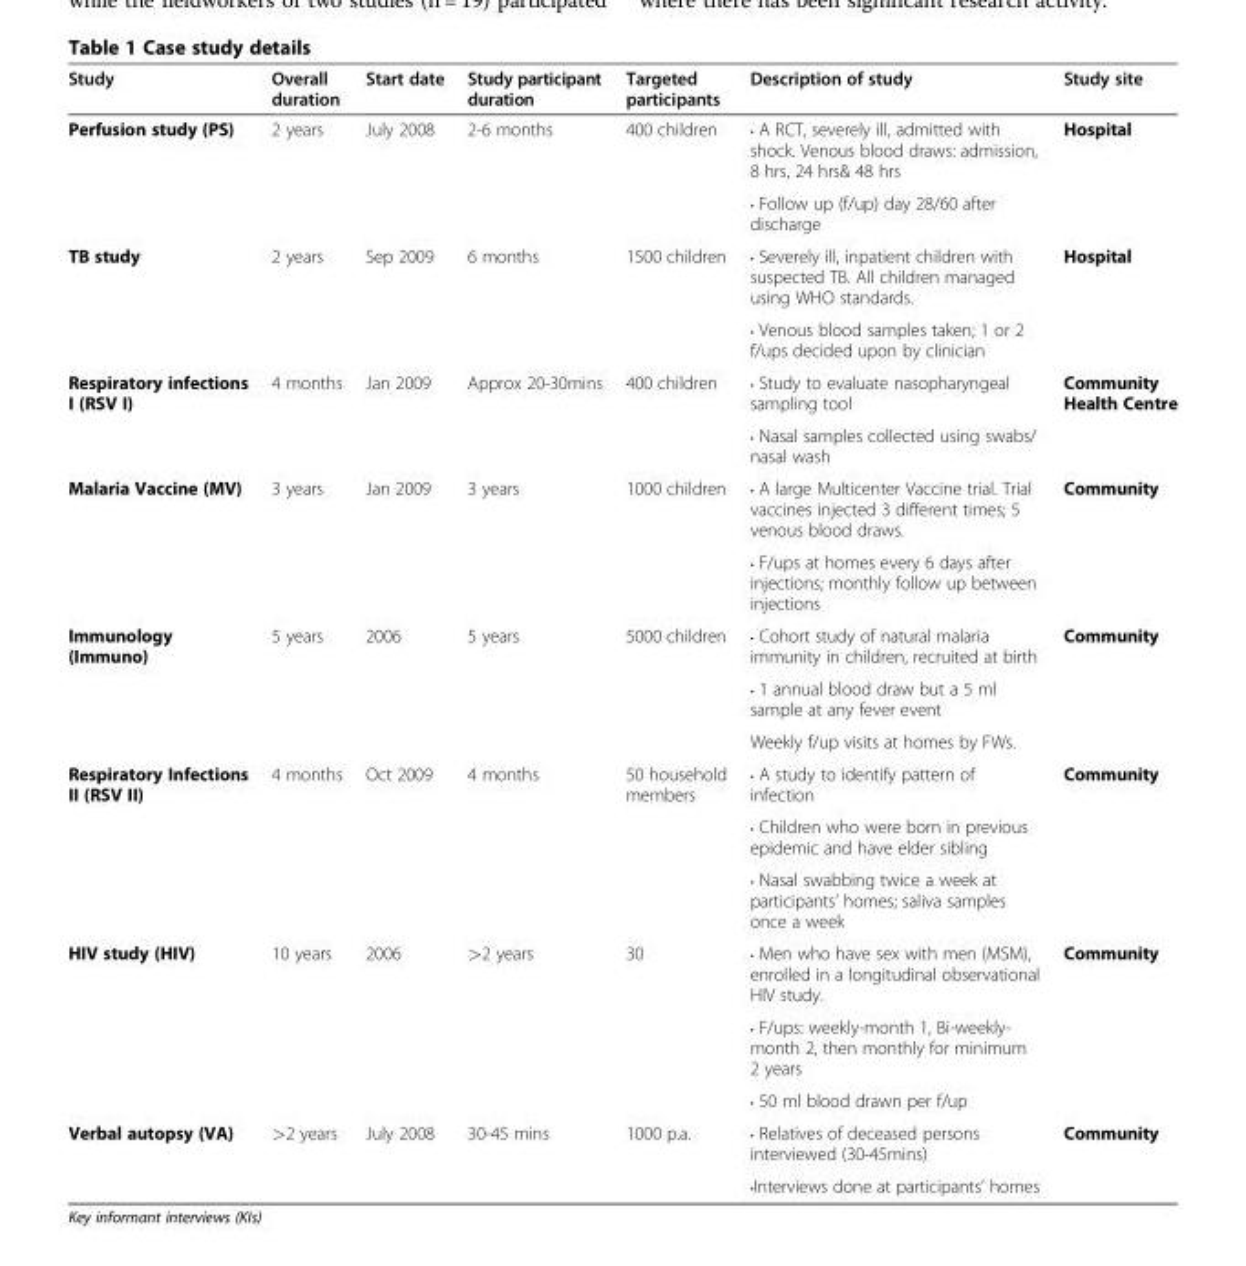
<table><thead><tr><td>Study</td><td>Overall duration</td><td>Start date</td><td>Study participant duration</td><td>Targeted participants</td><td>Description of study</td><td>Study site</td></tr></thead><tbody><tr><td rowspan="2">Perfusion study (PS)</td><td rowspan="2">2 years</td><td rowspan="2">July 2008</td><td rowspan="2">2-6 months</td><td rowspan="2">400 children</td><td>• A RCT, severely ill, admitted with shock. Venous blood draws: admission, 8 hrs, 24 hrs&amp; 48 hrs</td><td rowspan="2">Hospital</td></tr><tr><td>• Follow up (f/up) day 28/60 after discharge</td></tr><tr><td rowspan="2">TB study</td><td rowspan="2">2 years</td><td rowspan="2">Sep 2009</td><td rowspan="2">6 months</td><td rowspan="2">1500 children</td><td>• Severely ill, inpatient children with suspected TB. All children managed using WHO standards.</td><td rowspan="2">Hospital</td></tr><tr><td>• Venous blood samples taken; 1 or 2 f/ups decided upon by clinician</td></tr><tr><td rowspan="2">Respiratory infections I (RSV I)</td><td rowspan="2">4 months</td><td rowspan="2">Jan 2009</td><td rowspan="2">Approx 20-30mins</td><td rowspan="2">400 children</td><td>• Study to evaluate nasopharyngeal sampling tool</td><td rowspan="2">Community Health Centre</td></tr><tr><td>• Nasal samples collected using swabs/ nasal wash</td></tr><tr><td rowspan="2">Malaria Vaccine (MV)</td><td rowspan="2">3 years</td><td rowspan="2">Jan 2009</td><td rowspan="2">3 years</td><td rowspan="2">1000 children</td><td>• A large Multicenter Vaccine trial. Trial vaccines injected 3 different times; 5 venous blood draws.</td><td rowspan="2">Community</td></tr><tr><td>• F/ups at homes every 6 days after injections; monthly follow up between injections</td></tr><tr><td rowspan="3">Immunology (Immuno)</td><td rowspan="3">5 years</td><td rowspan="3">2006</td><td rowspan="3">5 years</td><td rowspan="3">5000 children</td><td>• Cohort study of natural malaria immunity in children, recruited at birth</td><td rowspan="3">Community</td></tr><tr><td>• 1 annual blood draw but a 5 ml sample at any fever event</td></tr><tr><td>Weekly f/up visits at homes by FWs.</td></tr><tr><td rowspan="3">Respiratory Infections II (RSV II)</td><td rowspan="3">4 months</td><td rowspan="3">Oct 2009</td><td rowspan="3">4 months</td><td rowspan="3">50 household members</td><td>• A study to identify pattern of infection</td><td rowspan="3">Community</td></tr><tr><td>• Children who were born in previous epidemic and have elder sibling</td></tr><tr><td>• Nasal swabbing twice a week at participants’ homes; saliva samples once a week</td></tr><tr><td rowspan="3">HIV study (HIV)</td><td rowspan="3">10 years</td><td rowspan="3">2006</td><td rowspan="3">&gt;2 years</td><td rowspan="3">30</td><td>• Men who have sex with men (MSM), enrolled in a longitudinal observational HIV study.</td><td rowspan="3">Community</td></tr><tr><td>• F/ups: weekly-month 1, Bi-weekly- month 2, then monthly for minimum 2 years</td></tr><tr><td>• 50 ml blood drawn per f/up</td></tr><tr><td rowspan="2">Verbal autopsy (VA)</td><td rowspan="2">&gt;2 years</td><td rowspan="2">July 2008</td><td rowspan="2">30-45 mins</td><td rowspan="2">1000 p.a.</td><td>• Relatives of deceased persons interviewed (30-45mins)</td><td rowspan="2">Community</td></tr><tr><td>•Interviews done at participants’ homes</td></tr></tbody></table>